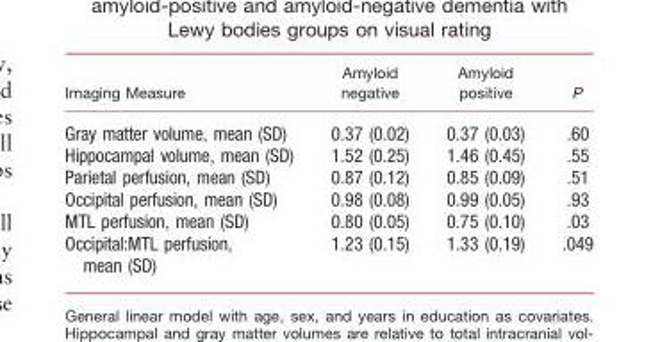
<table><thead><tr><td>Imaging Measure</td><td>Amyloid negative</td><td>Amyloid positive</td><td>P</td></tr></thead><tbody><tr><td>Gray matter volume, mean (SD)</td><td>0.37 (0.02)</td><td>0.37 (0.03)</td><td>.60</td></tr><tr><td>Hippocampal volume, mean (SD)</td><td>1.52 (0.25)</td><td>1.46 (0.45)</td><td>.55</td></tr><tr><td>Parietal perfusion, mean (SD)</td><td>0.87 (0.12)</td><td>0.85 (0.09)</td><td>.51</td></tr><tr><td>Occipital perfusion, mean (SD)</td><td>0.98 (0.08)</td><td>0.99 (0.05)</td><td>.93</td></tr><tr><td>MTL perfusion, mean (SD)</td><td>0.80 (0.05)</td><td>0.75 (0.10)</td><td>.03</td></tr><tr><td>Occipital:MTL perfusion, mean (SD)</td><td>1.23 (0.15)</td><td>1.33 (0.19)</td><td>.049</td></tr></tbody></table>